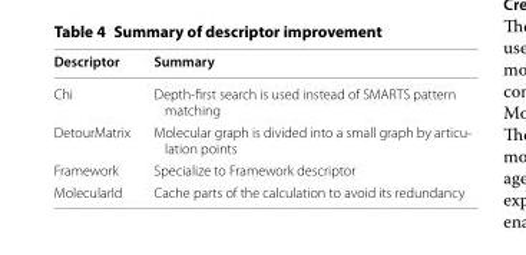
<table><thead><tr><td>Descriptor</td><td>Summary</td></tr></thead><tbody><tr><td>Chi</td><td>Depth‑first search is used instead of SMARTS pattern matching</td></tr><tr><td>DetourMatrix</td><td>Molecular graph is divided into a small graph by articu‑ lation points</td></tr><tr><td>Framework</td><td>Specialize to Framework descriptor</td></tr><tr><td>MolecularId</td><td>Cache parts of the calculation to avoid its redundancy</td></tr></tbody></table>